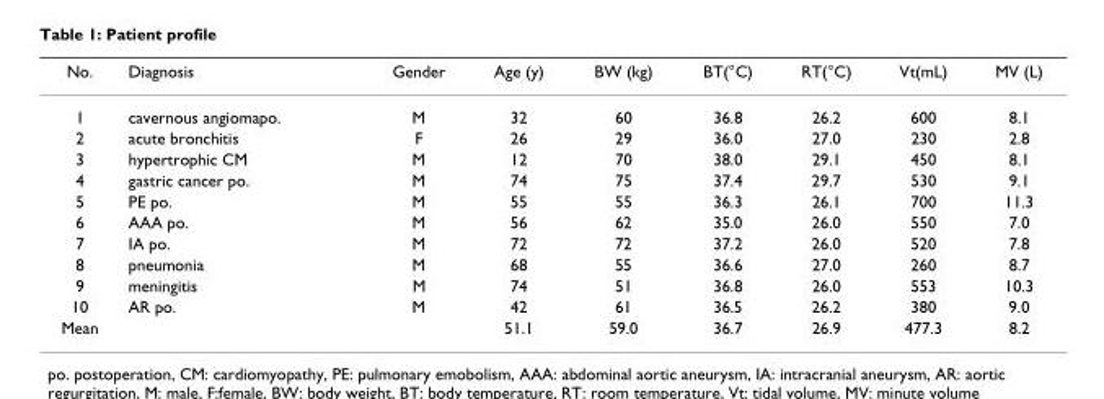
<table><thead><tr><td>No.</td><td>Diagnosis</td><td>Gender</td><td>Age (y)</td><td>BW (kg)</td><td>BT(°C)</td><td>RT(°C)</td><td>Vt(mL)</td><td>MV (L)</td></tr></thead><tbody><tr><td>1</td><td>cavernous angiomapo.</td><td>M</td><td>32</td><td>60</td><td>36.8</td><td>26.2</td><td>600</td><td>8.1</td></tr><tr><td>2</td><td>acute bronchitis</td><td>F</td><td>26</td><td>29</td><td>36.0</td><td>27.0</td><td>230</td><td>2.8</td></tr><tr><td>3</td><td>hypertrophic CM</td><td>M</td><td>12</td><td>70</td><td>38.0</td><td>29.1</td><td>450</td><td>8.1</td></tr><tr><td>4</td><td>gastric cancer po.</td><td>M</td><td>74</td><td>75</td><td>37.4</td><td>29.7</td><td>530</td><td>9.1</td></tr><tr><td>5</td><td>PE po.</td><td>M</td><td>55</td><td>55</td><td>36.3</td><td>26.1</td><td>700</td><td>11.3</td></tr><tr><td>6</td><td>AAA po.</td><td>M</td><td>56</td><td>62</td><td>35.0</td><td>26.0</td><td>550</td><td>7.0</td></tr><tr><td>7</td><td>IA po.</td><td>M</td><td>72</td><td>72</td><td>37.2</td><td>26.0</td><td>520</td><td>7.8</td></tr><tr><td>8</td><td>pneumonia</td><td>M</td><td>68</td><td>55</td><td>36.6</td><td>27.0</td><td>260</td><td>8.7</td></tr><tr><td>9</td><td>meningitis</td><td>M</td><td>74</td><td>51</td><td>36.8</td><td>26.0</td><td>553</td><td>10.3</td></tr><tr><td>10</td><td>AR po.</td><td>M</td><td>42</td><td>61</td><td>36.5</td><td>26.2</td><td>380</td><td>9.0</td></tr><tr><td>Mean</td><td></td><td></td><td>51.1</td><td>59.0</td><td>36.7</td><td>26.9</td><td>477.3</td><td>8.2</td></tr></tbody></table>